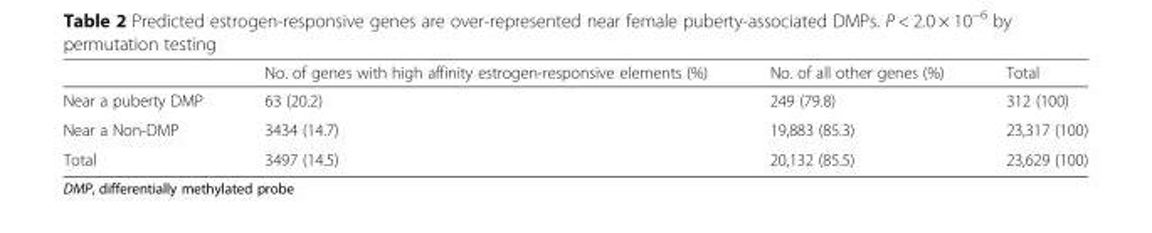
<table><thead><tr><td></td><td>No. of genes with high affinity estrogen-responsive elements (%)</td><td>No. of all other genes (%)</td><td>Total</td></tr></thead><tbody><tr><td>Near a puberty DMP</td><td>63 (20.2)</td><td>249 (79.8)</td><td>312 (100)</td></tr><tr><td>Near a Non-DMP</td><td>3434 (14.7)</td><td>19,883 (85.3)</td><td>23,317 (100)</td></tr><tr><td>Total</td><td>3497 (14.5)</td><td>20,132 (85.5)</td><td>23,629 (100)</td></tr></tbody></table>